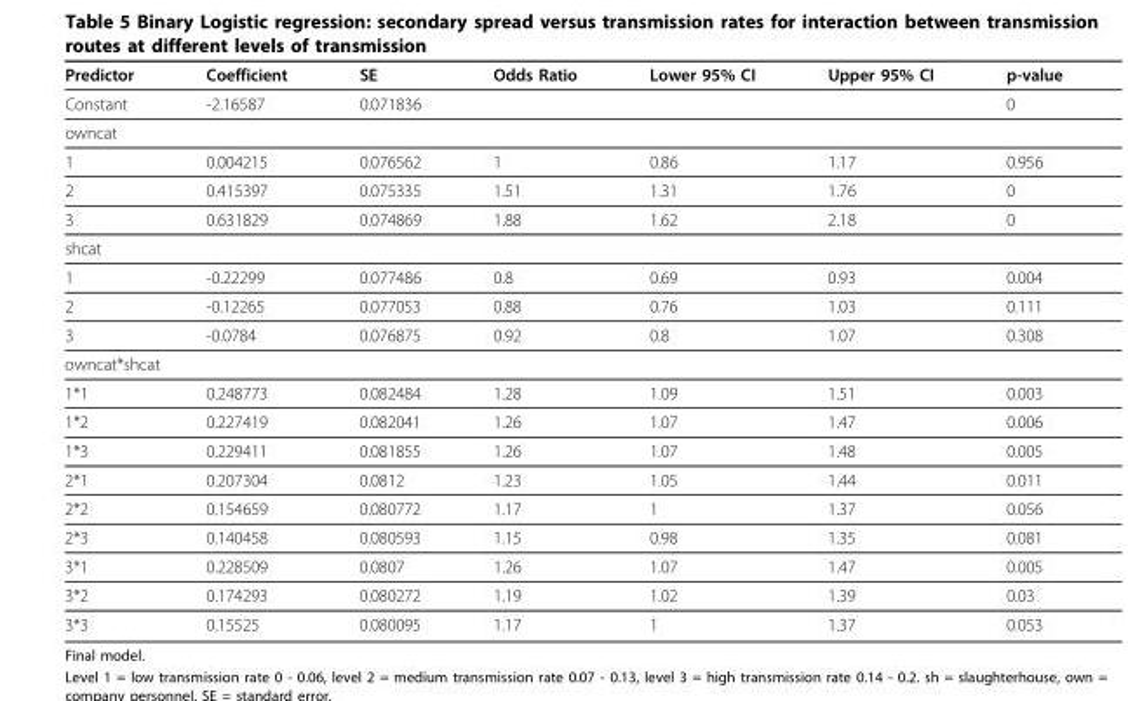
<table><thead><tr><td>Predictor</td><td>Coefficient</td><td>SE</td><td>Odds Ratio</td><td>Lower 95% CI</td><td>Upper 95% CI</td><td>p-value</td></tr></thead><tbody><tr><td>Constant</td><td>-2.16587</td><td>0.071836</td><td></td><td></td><td></td><td>0</td></tr><tr><td colspan="7">owncat</td></tr><tr><td>1</td><td>0.004215</td><td>0.076562</td><td>1</td><td>0.86</td><td>1.17</td><td>0.956</td></tr><tr><td>2</td><td>0.415397</td><td>0.075335</td><td>1.51</td><td>1.31</td><td>1.76</td><td>0</td></tr><tr><td>3</td><td>0.631829</td><td>0.074869</td><td>1.88</td><td>1.62</td><td>2.18</td><td>0</td></tr><tr><td colspan="7">shcat</td></tr><tr><td>1</td><td>-0.22299</td><td>0.077486</td><td>0.8</td><td>0.69</td><td>0.93</td><td>0.004</td></tr><tr><td>2</td><td>-0.12265</td><td>0.077053</td><td>0.88</td><td>0.76</td><td>1.03</td><td>0.111</td></tr><tr><td>3</td><td>-0.0784</td><td>0.076875</td><td>0.92</td><td>0.8</td><td>1.07</td><td>0.308</td></tr><tr><td colspan="7">owncat*shcat</td></tr><tr><td>1*1</td><td>0.248773</td><td>0.082484</td><td>1.28</td><td>1.09</td><td>1.51</td><td>0.003</td></tr><tr><td>1*2</td><td>0.227419</td><td>0.082041</td><td>1.26</td><td>1.07</td><td>1.47</td><td>0.006</td></tr><tr><td>1*3</td><td>0.229411</td><td>0.081855</td><td>1.26</td><td>1.07</td><td>1.48</td><td>0.005</td></tr><tr><td>2*1</td><td>0.207304</td><td>0.0812</td><td>1.23</td><td>1.05</td><td>1.44</td><td>0.011</td></tr><tr><td>2*2</td><td>0.154659</td><td>0.080772</td><td>1.17</td><td>1</td><td>1.37</td><td>0.056</td></tr><tr><td>2*3</td><td>0.140458</td><td>0.080593</td><td>1.15</td><td>0.98</td><td>1.35</td><td>0.081</td></tr><tr><td>3*1</td><td>0.228509</td><td>0.0807</td><td>1.26</td><td>1.07</td><td>1.47</td><td>0.005</td></tr><tr><td>3*2</td><td>0.174293</td><td>0.080272</td><td>1.19</td><td>1.02</td><td>1.39</td><td>0.03</td></tr><tr><td>3*3</td><td>0.15525</td><td>0.080095</td><td>1.17</td><td>1</td><td>1.37</td><td>0.053</td></tr></tbody></table>